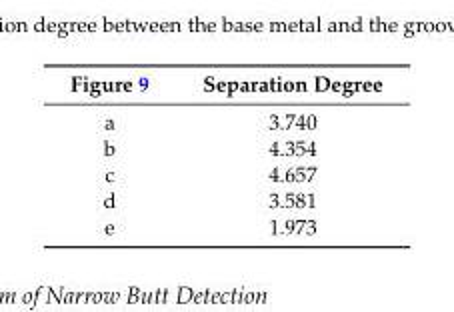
<table><thead><tr><td>Figure 9</td><td>Separation Degree</td></tr></thead><tbody><tr><td>a</td><td>3.740</td></tr><tr><td>b</td><td>4.354</td></tr><tr><td>c</td><td>4.657</td></tr><tr><td>d</td><td>3.581</td></tr><tr><td>e</td><td>1.973</td></tr></tbody></table>